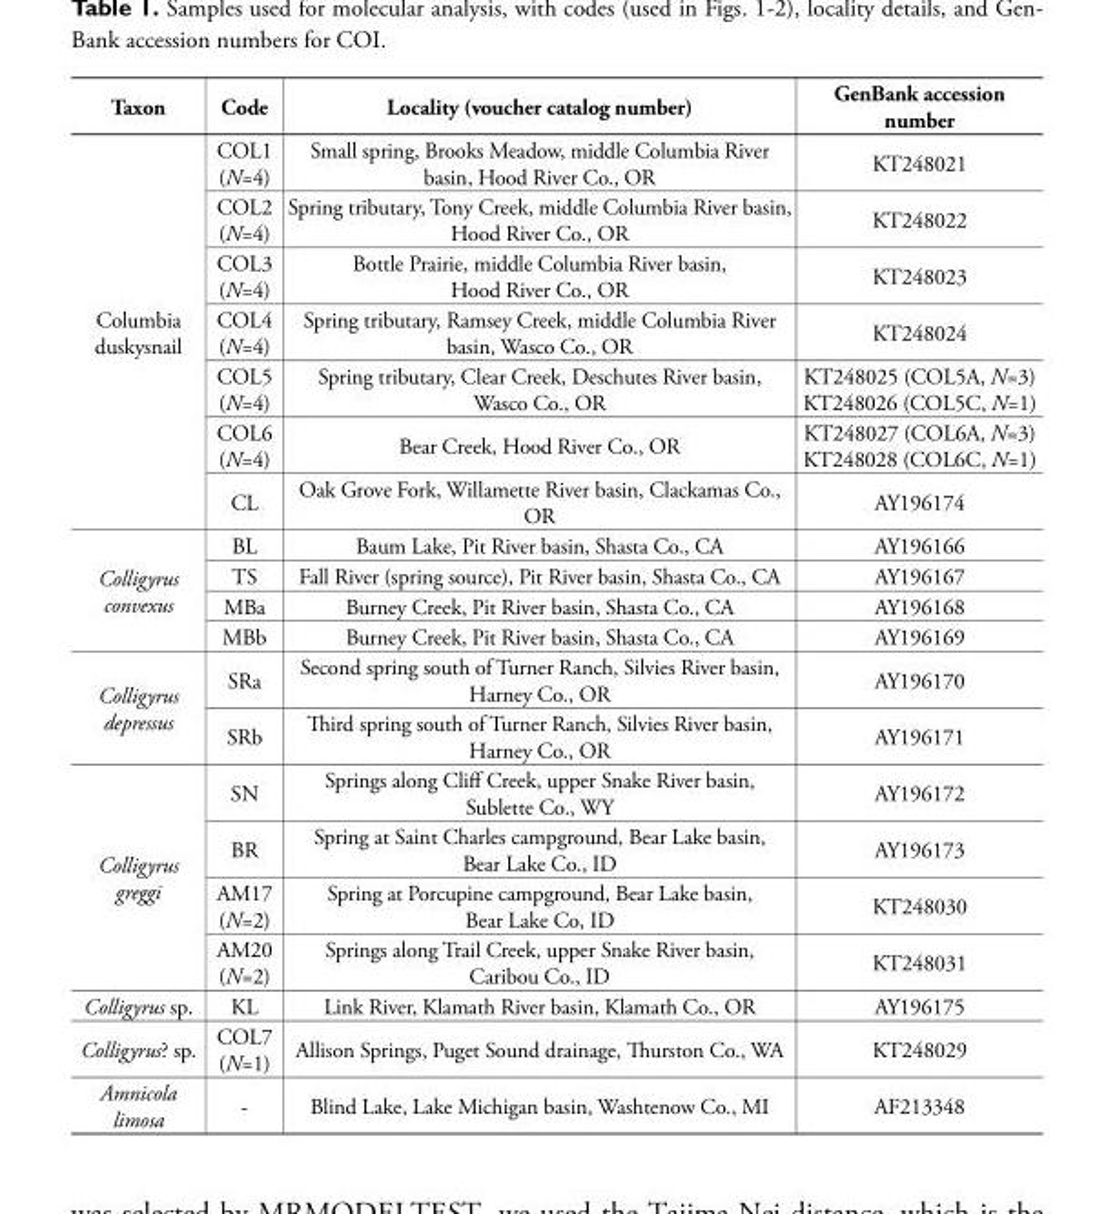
<table><thead><tr><td>Taxon</td><td>Code</td><td>Locality (voucher catalog number)</td><td>GenBank accession number</td></tr></thead><tbody><tr><td rowspan="7">Columbia duskysnail</td><td>COL1 (N=4)</td><td>Small spring, Brooks Meadow, middle Columbia River basin, Hood River Co., OR</td><td>KT248021</td></tr><tr><td>COL2 (N=4)</td><td>Spring tributary, Tony Creek, middle Columbia River basin, Hood River Co., OR</td><td>KT248022</td></tr><tr><td>COL3 (N=4)</td><td>Bottle Prairie, middle Columbia River basin, Hood River Co., OR</td><td>KT248023</td></tr><tr><td>COL4 (N=4)</td><td>Spring tributary, Ramsey Creek, middle Columbia River basin, Wasco Co., OR</td><td>KT248024</td></tr><tr><td>COL5 (N=4)</td><td>Spring tributary, Clear Creek, Deschutes River basin, Wasco Co., OR</td><td>KT248025 (COL5A, N=3) KT248026 (COL5C, N=1)</td></tr><tr><td>COL6 (N=4)</td><td>Bear Creek, Hood River Co., OR</td><td>KT248027 (COL6A, N=3) KT248028 (COL6C, N=1)</td></tr><tr><td>CL</td><td>Oak Grove Fork, Willamette River basin, Clackamas Co., OR</td><td>AY196174</td></tr><tr><td rowspan="4">Colligyrus convexus</td><td>BL</td><td>Baum Lake, Pit River basin, Shasta Co., CA</td><td>AY196166</td></tr><tr><td>TS</td><td>Fall River (spring source), Pit River basin, Shasta Co., CA</td><td>AY196167</td></tr><tr><td>MBa</td><td>Burney Creek, Pit River basin, Shasta Co., CA</td><td>AY196168</td></tr><tr><td>MBb</td><td>Burney Creek, Pit River basin, Shasta Co., CA</td><td>AY196169</td></tr><tr><td rowspan="2">Colligyrus depressus</td><td>SRa</td><td>Second spring south of Turner Ranch, Silvies River basin, Harney Co., OR</td><td>AY196170</td></tr><tr><td>SRb</td><td>Third spring south of Turner Ranch, Silvies River basin, Harney Co., OR</td><td>AY196171</td></tr><tr><td rowspan="4">Colligyrus greggi</td><td>SN</td><td>Springs along Cliff Creek, upper Snake River basin, Sublette Co., WY</td><td>AY196172</td></tr><tr><td>BR</td><td>Spring at Saint Charles campground, Bear Lake basin, Bear Lake Co., ID</td><td>AY196173</td></tr><tr><td>AM17 (N=2)</td><td>Spring at Porcupine campground, Bear Lake basin, Bear Lake Co, ID</td><td>KT248030</td></tr><tr><td>AM20 (N=2)</td><td>Springs along Trail Creek, upper Snake River basin, Caribou Co., ID</td><td>KT248031</td></tr><tr><td>Colligyrus sp.</td><td>KL</td><td>Link River, Klamath River basin, Klamath Co., OR</td><td>AY196175</td></tr><tr><td>Colligyrus? sp.</td><td>COL7 (N=1)</td><td>Allison Springs, Puget Sound drainage, Thurston Co., WA</td><td>KT248029</td></tr><tr><td>Amnicola limosa</td><td>-</td><td>Blind Lake, Lake Michigan basin, Washtenow Co., MI</td><td>AF213348</td></tr></tbody></table>